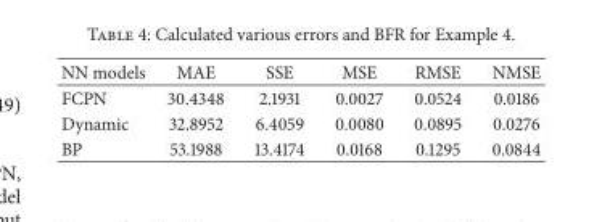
<table><thead><tr><td>NN models</td><td>MAE</td><td>SSE</td><td>MSE</td><td>RMSE</td><td>NMSE</td></tr></thead><tbody><tr><td>FCPN</td><td>30.4348</td><td>2.1931</td><td>0.0027</td><td>0.0524</td><td>0.0186</td></tr><tr><td>Dynamic</td><td>32.8952</td><td>6.4059</td><td>0.0080</td><td>0.0895</td><td>0.0276</td></tr><tr><td>BP</td><td>53.1988</td><td>13.4174</td><td>0.0168</td><td>0.1295</td><td>0.0844</td></tr></tbody></table>